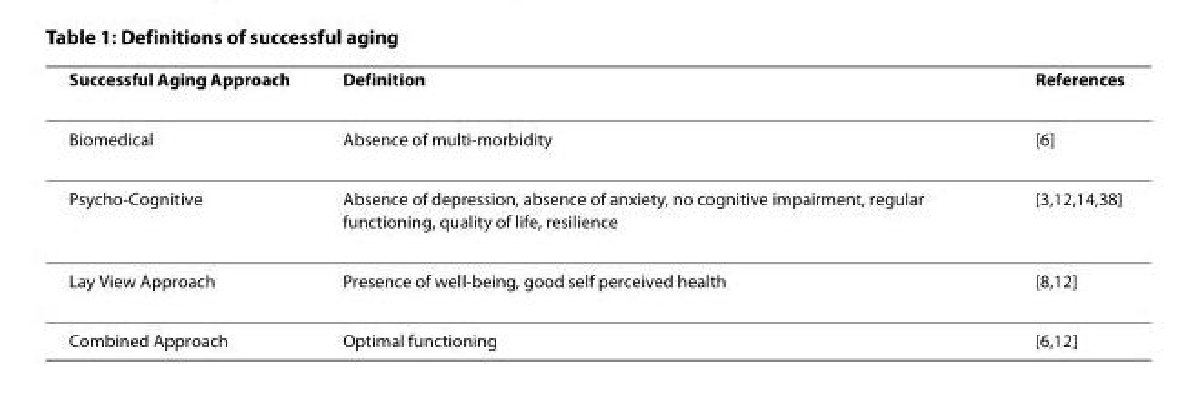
<table><thead><tr><td>Successful Aging Approach</td><td>Definition</td><td>References</td></tr></thead><tbody><tr><td>Biomedical</td><td>Absence of multi-morbidity</td><td>[6]</td></tr><tr><td>Psycho-Cognitive</td><td>Absence of depression, absence of anxiety, no cognitive impairment, regular functioning, quality of life, resilience</td><td>[3,12,14,38]</td></tr><tr><td>Lay View Approach</td><td>Presence of well-being, good self perceived health</td><td>[8,12]</td></tr><tr><td>Combined Approach</td><td>Optimal functioning</td><td>[6,12]</td></tr></tbody></table>